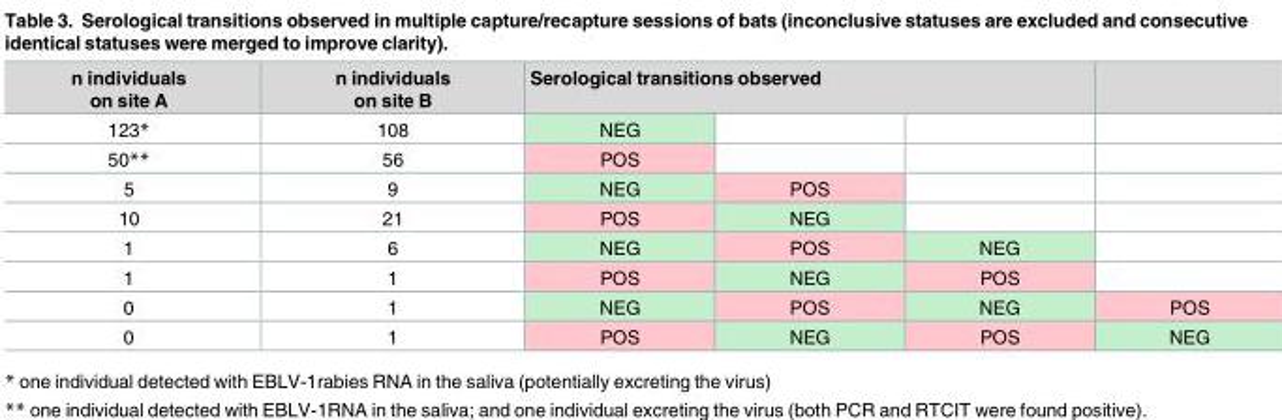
<table><thead><tr><td rowspan="2">n individuals on site A 123*</td><td rowspan="2">n individuals on site B 108</td><td colspan="3">Serological transitions observed</td><td rowspan="2"></td></tr><tr><td>NEG</td><td></td><td></td></tr></thead><tbody><tr><td>50**</td><td>56</td><td>POS</td><td></td><td></td><td></td></tr><tr><td>5</td><td>9</td><td>NEG</td><td>POS</td><td></td><td></td></tr><tr><td>10</td><td>21</td><td>POS</td><td>NEG</td><td></td><td></td></tr><tr><td>1</td><td>6</td><td>NEG</td><td>POS</td><td>NEG</td><td></td></tr><tr><td>1</td><td>1</td><td>POS</td><td>NEG</td><td>POS</td><td></td></tr><tr><td>0</td><td>1</td><td>NEG</td><td>POS</td><td>NEG</td><td>POS</td></tr><tr><td>0</td><td>1</td><td>POS</td><td>NEG</td><td>POS</td><td>NEG</td></tr></tbody></table>